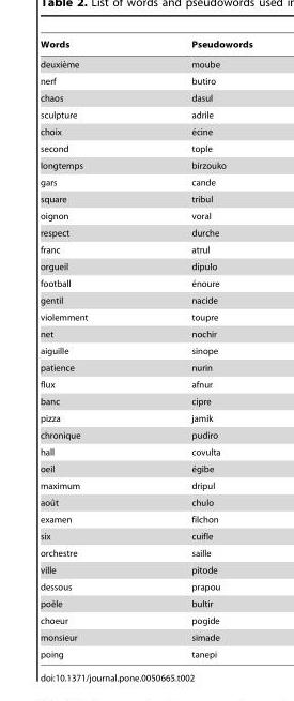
<table><thead><tr><td>Words</td><td>Pseudowords</td></tr></thead><tbody><tr><td>deuxie`me</td><td>moube</td></tr><tr><td>nerf</td><td>butiro</td></tr><tr><td>chaos</td><td>dasul</td></tr><tr><td>sculpture</td><td>adrile</td></tr><tr><td>choix</td><td>e´cine</td></tr><tr><td>second</td><td>tople</td></tr><tr><td>longtemps</td><td>birzouko</td></tr><tr><td>gars</td><td>cande</td></tr><tr><td>square</td><td>tribul</td></tr><tr><td>oignon</td><td>voral</td></tr><tr><td>respect</td><td>durche</td></tr><tr><td>franc</td><td>atrul</td></tr><tr><td>orgueil</td><td>dipulo</td></tr><tr><td>football</td><td>e´noure</td></tr><tr><td>gentil</td><td>nacide</td></tr><tr><td>violemment</td><td>toupre</td></tr><tr><td>net</td><td>nochir</td></tr><tr><td>aiguille</td><td>sinope</td></tr><tr><td>patience</td><td>nurin</td></tr><tr><td>flux</td><td>afnur</td></tr><tr><td>banc</td><td>cipre</td></tr><tr><td>pizza</td><td>jamik</td></tr><tr><td>chronique</td><td>pudiro</td></tr><tr><td>hall</td><td>covulta</td></tr><tr><td>oeil</td><td>e´gibe</td></tr><tr><td>maximum</td><td>dripul</td></tr><tr><td>aouˆt</td><td>chulo</td></tr><tr><td>examen</td><td>filchon</td></tr><tr><td>six</td><td>cuifle</td></tr><tr><td>orchestre</td><td>saille</td></tr><tr><td>ville</td><td>pitode</td></tr><tr><td>dessous</td><td>prapou</td></tr><tr><td>poeˆle</td><td>bultir</td></tr><tr><td>choeur</td><td>pogide</td></tr><tr><td>monsieur</td><td>simade</td></tr><tr><td>poing</td><td>tanepi</td></tr></tbody></table>